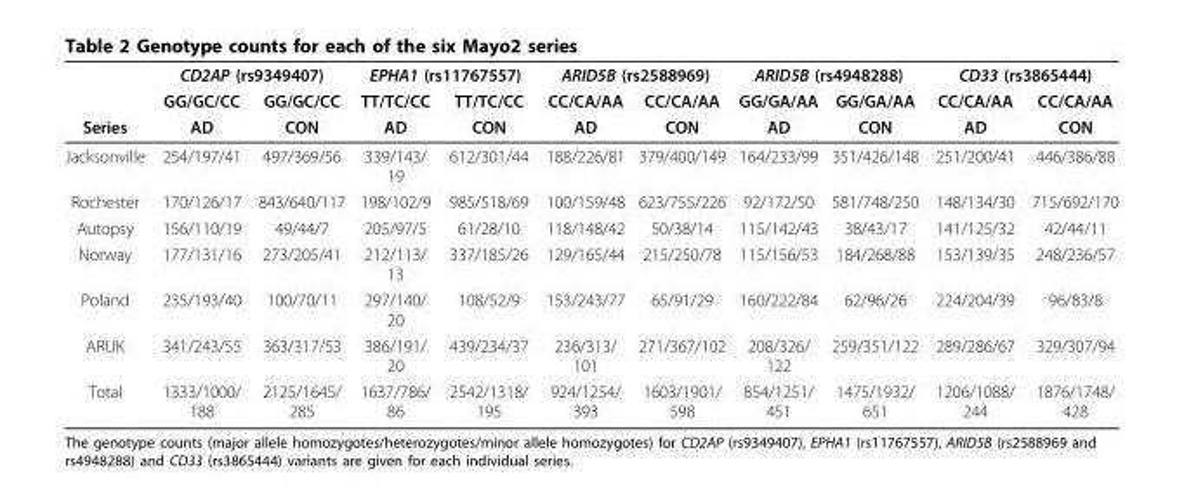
<table><thead><tr><td rowspan="3">Series</td><td colspan="2">CD2AP (rs9349407)</td><td colspan="2">EPHA1 (rs11767557)</td><td colspan="2">ARID5B (rs2588969)</td><td colspan="2">ARID5B (rs4948288)</td><td colspan="2">CD33 (rs3865444)</td></tr><tr><td rowspan="2">GG/GC/CC AD</td><td rowspan="2">GG/GC/CC CON</td><td rowspan="2">TT/TC/CC AD</td><td rowspan="2">TT/TC/CC CON</td><td rowspan="2">CC/CA/AA AD</td><td rowspan="2">CC/CA/AA CON</td><td rowspan="2">GG/GA/AA AD</td><td rowspan="2">GG/GA/AA CON</td><td rowspan="2">CC/CA/AA AD</td><td rowspan="2">CC/CA/AA CON</td></tr><tr></tr></thead><tbody><tr><td>Jacksonville</td><td>254/197/41</td><td>497/369/56</td><td>339/143/ 19</td><td>612/301/44</td><td>188/226/81</td><td>379/400/149</td><td>164/233/99</td><td>351/426/148</td><td>251/200/41</td><td>446/386/88</td></tr><tr><td>Rochester</td><td>170/126/17</td><td>843/640/117</td><td>198/102/9</td><td>985/518/69</td><td>100/159/48</td><td>623/755/226</td><td>92/172/50</td><td>581/748/250</td><td>148/134/30</td><td>715/692/170</td></tr><tr><td>Autopsy</td><td>156/110/19</td><td>49/44/7</td><td>205/97/5</td><td>61/28/10</td><td>118/148/42</td><td>50/38/14</td><td>115/142/43</td><td>38/43/17</td><td>141/125/32</td><td>42/44/11</td></tr><tr><td>Norway</td><td>177/131/16</td><td>273/205/41</td><td>212/113/ 13</td><td>337/185/26</td><td>129/165/44</td><td>215/250/78</td><td>115/156/53</td><td>184/268/88</td><td>153/139/35</td><td>248/236/57</td></tr><tr><td>Poland</td><td>235/193/40</td><td>100/70/11</td><td>297/140/ 20</td><td>108/52/9</td><td>153/243/77</td><td>65/91/29</td><td>160/222/84</td><td>62/96/26</td><td>224/204/39</td><td>96/83/8</td></tr><tr><td>ARUK</td><td>341/243/55</td><td>363/317/53</td><td>386/191/ 20</td><td>439/234/37</td><td>236/313/ 101</td><td>271/367/102</td><td>208/326/ 122</td><td>259/351/122</td><td>289/286/67</td><td>329/307/94</td></tr><tr><td>Total</td><td>1333/1000/ 188</td><td>2125/1645/ 285</td><td>1637/786/ 86</td><td>2542/1318/ 195</td><td>924/1254/ 393</td><td>1603/1901/ 598</td><td>854/1251/ 451</td><td>1475/1932/ 651</td><td>1206/1088/ 244</td><td>1876/1748/ 428</td></tr></tbody></table>